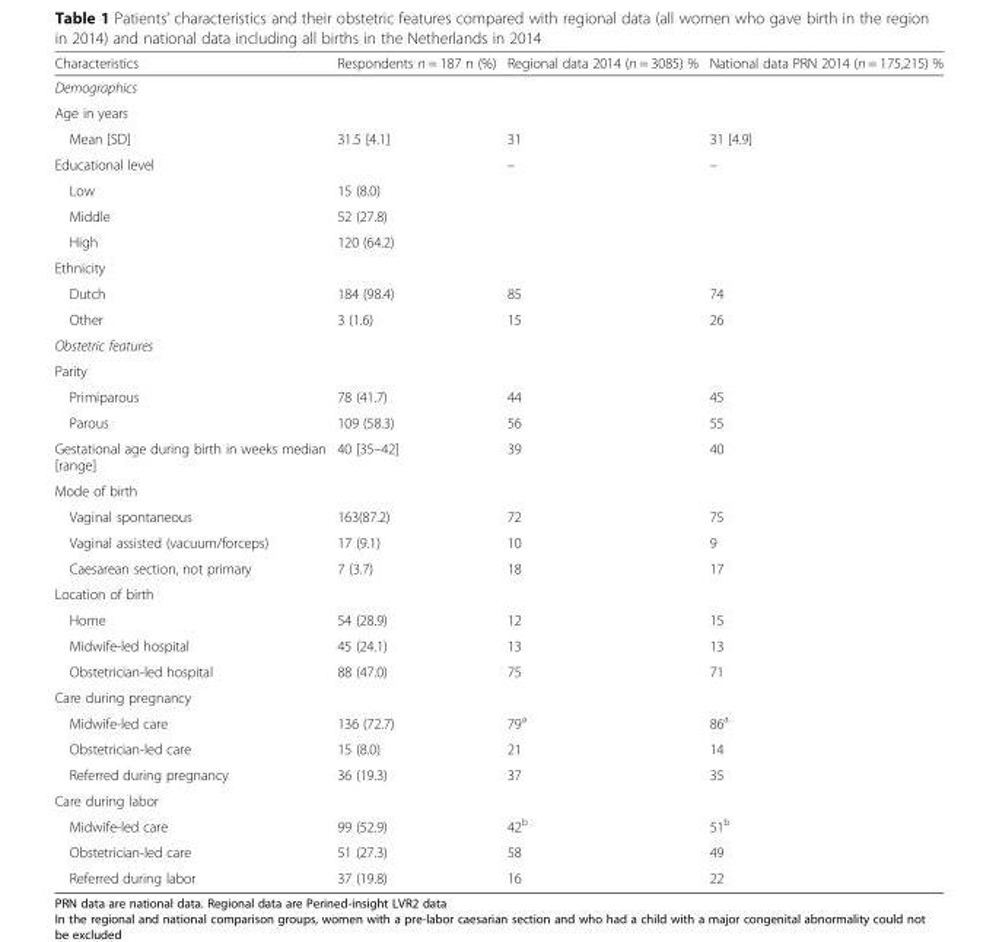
<table><thead><tr><td>Characteristics</td><td>Respondents n = 187 n (%)</td><td>Regional data 2014 (n = 3085) %</td><td>National data PRN 2014 (n = 175,215) %</td></tr></thead><tbody><tr><td colspan="4">Demographics</td></tr><tr><td colspan="4">Age in years</td></tr><tr><td>Mean [SD]</td><td>31.5 [4.1]</td><td>31</td><td>31 [4.9]</td></tr><tr><td>Educational level</td><td></td><td>–</td><td>–</td></tr><tr><td>Low</td><td>15 (8.0)</td><td></td><td></td></tr><tr><td>Middle</td><td>52 (27.8)</td><td></td><td></td></tr><tr><td>High</td><td>120 (64.2)</td><td></td><td></td></tr><tr><td colspan="4">Ethnicity</td></tr><tr><td>Dutch</td><td>184 (98.4)</td><td>85</td><td>74</td></tr><tr><td>Other</td><td>3 (1.6)</td><td>15</td><td>26</td></tr><tr><td colspan="4">Obstetric features</td></tr><tr><td colspan="4">Parity</td></tr><tr><td>Primiparous</td><td>78 (41.7)</td><td>44</td><td>45</td></tr><tr><td>Parous</td><td>109 (58.3)</td><td>56</td><td>55</td></tr><tr><td>Gestational age during birth in weeks median [range]</td><td>40 [35–42]</td><td>39</td><td>40</td></tr><tr><td colspan="4">Mode of birth</td></tr><tr><td>Vaginal spontaneous</td><td>163(87.2)</td><td>72</td><td>75</td></tr><tr><td>Vaginal assisted (vacuum/forceps)</td><td>17 (9.1)</td><td>10</td><td>9</td></tr><tr><td>Caesarean section, not primary</td><td>7 (3.7)</td><td>18</td><td>17</td></tr><tr><td colspan="4">Location of birth</td></tr><tr><td>Home</td><td>54 (28.9)</td><td>12</td><td>15</td></tr><tr><td>Midwife-led hospital</td><td>45 (24.1)</td><td>13</td><td>13</td></tr><tr><td>Obstetrician-led hospital</td><td>88 (47.0)</td><td>75</td><td>71</td></tr><tr><td colspan="4">Care during pregnancy</td></tr><tr><td>Midwife-led care</td><td>136 (72.7)</td><td>79<sup>a</sup></td><td>86<sup>a</sup></td></tr><tr><td>Obstetrician-led care</td><td>15 (8.0)</td><td>21</td><td>14</td></tr><tr><td>Referred during pregnancy</td><td>36 (19.3)</td><td>37</td><td>35</td></tr><tr><td colspan="4">Care during labor</td></tr><tr><td>Midwife-led care</td><td>99 (52.9)</td><td>42<sup>b</sup></td><td>51<sup>b</sup></td></tr><tr><td>Obstetrician-led care</td><td>51 (27.3)</td><td>58</td><td>49</td></tr><tr><td>Referred during labor</td><td>37 (19.8)</td><td>16</td><td>22</td></tr></tbody></table>